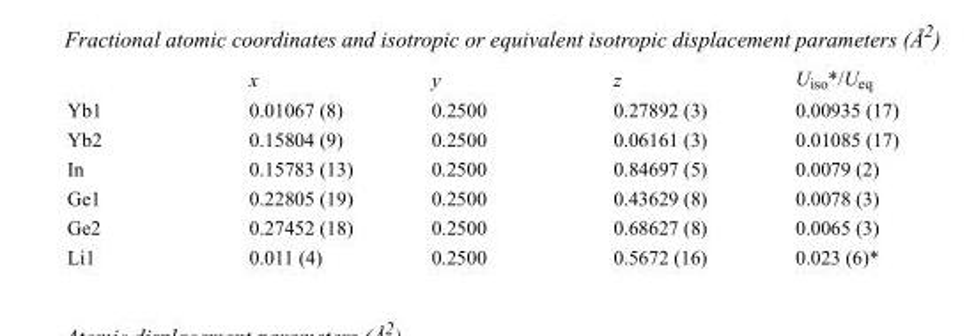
<table><thead><tr><td></td><td>x</td><td>y</td><td>z</td><td>U<sub>iso</sub>*/U<sub>eq</sub></td></tr></thead><tbody><tr><td>Yb1</td><td>0.01067 (8)</td><td>0.2500</td><td>0.27892 (3)</td><td>0.00935 (17)</td></tr><tr><td>Yb2</td><td>0.15804 (9)</td><td>0.2500</td><td>0.06161 (3)</td><td>0.01085 (17)</td></tr><tr><td>In</td><td>0.15783 (13)</td><td>0.2500</td><td>0.84697 (5)</td><td>0.0079 (2)</td></tr><tr><td>Ge1</td><td>0.22805 (19)</td><td>0.2500</td><td>0.43629 (8)</td><td>0.0078 (3)</td></tr><tr><td>Ge2</td><td>0.27452 (18)</td><td>0.2500</td><td>0.68627 (8)</td><td>0.0065 (3)</td></tr><tr><td>Li1</td><td>0.011 (4)</td><td>0.2500</td><td>0.5672 (16)</td><td>0.023 (6)*</td></tr></tbody></table>